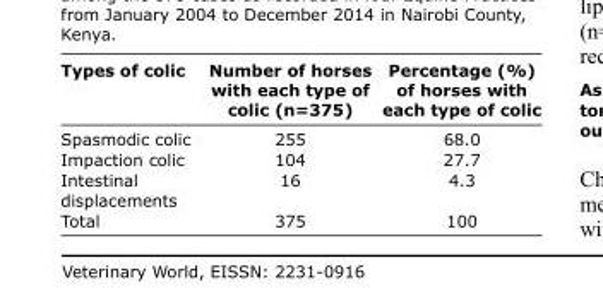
<table><thead><tr><td>Types of colic</td><td>Number of horses with each type of colic (n=375)</td><td>Percentage (%) of horses with each type of colic</td></tr></thead><tbody><tr><td>Spasmodic colic</td><td>255</td><td>68.0</td></tr><tr><td>Impaction colic</td><td>104</td><td>27.7</td></tr><tr><td>Intestinal displacements</td><td>16</td><td>4.3</td></tr><tr><td>Total</td><td>375</td><td>100</td></tr></tbody></table>